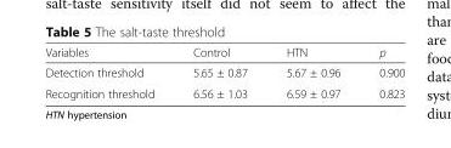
<table><thead><tr><td>Variables</td><td>Control</td><td>HTN</td><td>p</td></tr></thead><tbody><tr><td>Detection threshold</td><td>5.65 ± 0.87</td><td>5.67 ± 0.96</td><td>0.900</td></tr><tr><td>Recognition threshold</td><td>6.56 ± 1.03</td><td>6.59 ± 0.97</td><td>0.823</td></tr></tbody></table>